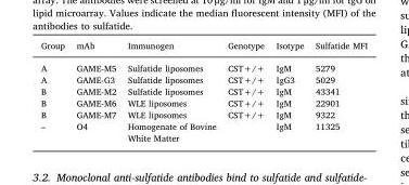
<table><thead><tr><td>Group</td><td>mAb</td><td>Immunogen</td><td>Genotype</td><td>Isotype</td><td>Sulfatide MFI</td></tr></thead><tbody><tr><td>A</td><td>GAME-M5</td><td>Sulfatide liposomes</td><td>CST+/+</td><td>IgM</td><td>5279</td></tr><tr><td>A</td><td>GAME-G3</td><td>Sulfatide liposomes</td><td>CST+/+</td><td>IgG3</td><td>5029</td></tr><tr><td>B</td><td>GAME-M2</td><td>Sulfatide liposomes</td><td>CST+/+</td><td>IgM</td><td>43341</td></tr><tr><td>B</td><td>GAME-M6</td><td>WLE liposomes</td><td>CST+/+</td><td>IgM</td><td>22901</td></tr><tr><td>B</td><td>GAME-M7</td><td>WLE liposomes</td><td>CST+/+</td><td>IgM</td><td>9322</td></tr><tr><td>–</td><td>O4</td><td>Homogenate of Bovine White Matter</td><td></td><td>IgM</td><td>11325</td></tr></tbody></table>